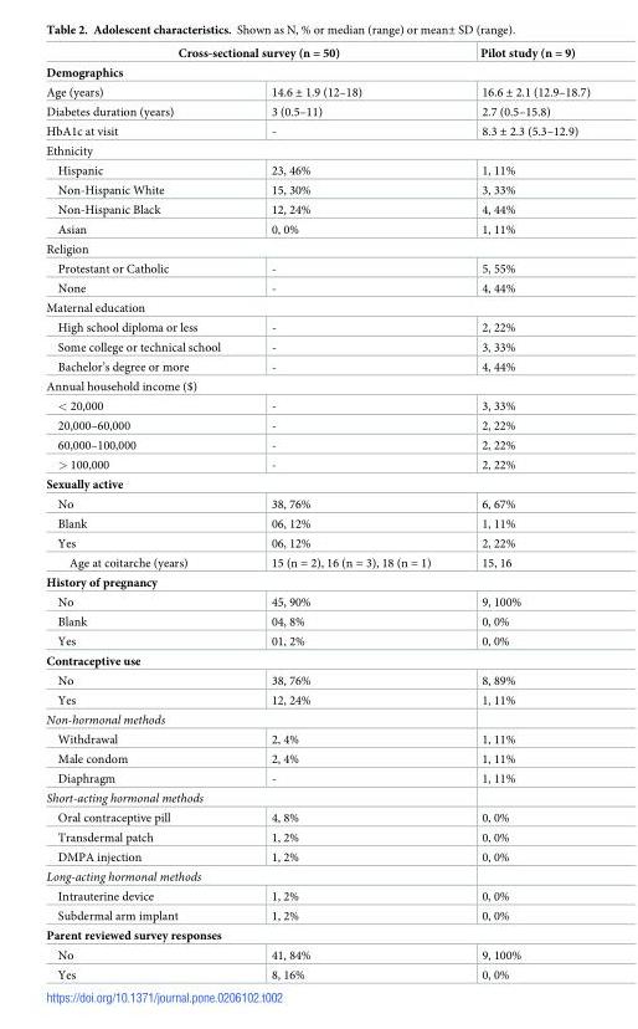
<table><thead><tr><td colspan="2">Cross-sectional survey (n = 50)</td><td>Pilot study (n = 9)</td></tr><tr><td colspan="3">Demographics</td></tr><tr><td>Age (years)</td><td>14.6 ± 1.9 (12–18)</td><td>16.6 ± 2.1 (12.9–18.7)</td></tr></thead><tbody><tr><td>Diabetes duration (years)</td><td>3 (0.5–11)</td><td>2.7 (0.5–15.8)</td></tr><tr><td>HbA1c at visit</td><td>-</td><td>8.3 ± 2.3 (5.3–12.9)</td></tr><tr><td colspan="3">Ethnicity</td></tr><tr><td>Hispanic</td><td>23, 46%</td><td>1, 11%</td></tr><tr><td>Non-Hispanic White</td><td>15, 30%</td><td>3, 33%</td></tr><tr><td>Non-Hispanic Black</td><td>12, 24%</td><td>4, 44%</td></tr><tr><td>Asian</td><td>0, 0%</td><td>1, 11%</td></tr><tr><td colspan="3">Religion</td></tr><tr><td>Protestant or Catholic</td><td>-</td><td>5, 55%</td></tr><tr><td>None</td><td>-</td><td>4, 44%</td></tr><tr><td colspan="3">Maternal education</td></tr><tr><td>High school diploma or less</td><td>-</td><td>2, 22%</td></tr><tr><td>Some college or technical school</td><td>-</td><td>3, 33%</td></tr><tr><td>Bachelor’s degree or more</td><td>-</td><td>4, 44%</td></tr><tr><td colspan="3">Annual household income ($)</td></tr><tr><td>&lt; 20,000</td><td>-</td><td>3, 33%</td></tr><tr><td>20,000–60,000</td><td>-</td><td>2, 22%</td></tr><tr><td>60,000–100,000</td><td>-</td><td>2, 22%</td></tr><tr><td>&gt; 100,000</td><td>-</td><td>2, 22%</td></tr><tr><td colspan="3">Sexually active</td></tr><tr><td>No</td><td>38, 76%</td><td>6, 67%</td></tr><tr><td>Blank</td><td>06, 12%</td><td>1, 11%</td></tr><tr><td>Yes</td><td>06, 12%</td><td>2, 22%</td></tr><tr><td>Age at coitarche (years)</td><td>15 (n = 2), 16 (n = 3), 18 (n = 1)</td><td>15, 16</td></tr><tr><td colspan="3">History of pregnancy</td></tr><tr><td>No</td><td>45, 90%</td><td>9, 100%</td></tr><tr><td>Blank</td><td>04, 8%</td><td>0, 0%</td></tr><tr><td>Yes</td><td>01, 2%</td><td>0, 0%</td></tr><tr><td colspan="3">Contraceptive use</td></tr><tr><td>No</td><td>38, 76%</td><td>8, 89%</td></tr><tr><td>Yes</td><td>12, 24%</td><td>1, 11%</td></tr><tr><td colspan="3">Non-hormonal methods</td></tr><tr><td>Withdrawal</td><td>2, 4%</td><td>1, 11%</td></tr><tr><td>Male condom</td><td>2, 4%</td><td>1, 11%</td></tr><tr><td>Diaphragm</td><td>-</td><td>1, 11%</td></tr><tr><td colspan="3">Short-acting hormonal methods</td></tr><tr><td>Oral contraceptive pill</td><td>4, 8%</td><td>0, 0%</td></tr><tr><td>Transdermal patch</td><td>1, 2%</td><td>0, 0%</td></tr><tr><td>DMPA injection</td><td>1, 2%</td><td>0, 0%</td></tr><tr><td colspan="3">Long-acting hormonal methods</td></tr><tr><td>Intrauterine device</td><td>1, 2%</td><td>0, 0%</td></tr><tr><td>Subdermal arm implant</td><td>1, 2%</td><td>0, 0%</td></tr><tr><td colspan="3">Parent reviewed survey responses</td></tr><tr><td>No</td><td>41, 84%</td><td>9, 100%</td></tr><tr><td>Yes</td><td>8, 16%</td><td>0, 0%</td></tr></tbody></table>